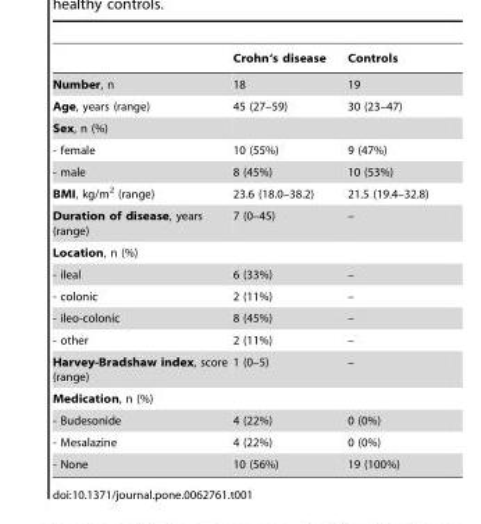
<table><thead><tr><td></td><td>Crohn‘s disease</td><td>Controls</td></tr></thead><tbody><tr><td>Number, n</td><td>18</td><td>19</td></tr><tr><td>Age, years (range)</td><td>45 (27–59)</td><td>30 (23–47)</td></tr><tr><td colspan="3">Sex, n (%)</td></tr><tr><td>- female</td><td>10 (55%)</td><td>9 (47%)</td></tr><tr><td>- male</td><td>8 (45%)</td><td>10 (53%)</td></tr><tr><td>BMI, kg/m<sup>2</sup> (range)</td><td>23.6 (18.0–38.2)</td><td>21.5 (19.4–32.8)</td></tr><tr><td>Duration of disease, years (range)</td><td>7 (0–45)</td><td>–</td></tr><tr><td colspan="3">Location, n (%)</td></tr><tr><td>- ileal</td><td>6 (33%)</td><td>–</td></tr><tr><td>- colonic</td><td>2 (11%)</td><td>–</td></tr><tr><td>- ileo-colonic</td><td>8 (45%)</td><td>–</td></tr><tr><td>- other</td><td>2 (11%)</td><td>–</td></tr><tr><td>Harvey-Bradshaw index, score (range)</td><td>1 (0–5)</td><td>–</td></tr><tr><td colspan="3">Medication, n (%)</td></tr><tr><td>- Budesonide</td><td>4 (22%)</td><td>0 (0%)</td></tr><tr><td>- Mesalazine</td><td>4 (22%)</td><td>0 (0%)</td></tr><tr><td>- None</td><td>10 (56%)</td><td>19 (100%)</td></tr></tbody></table>